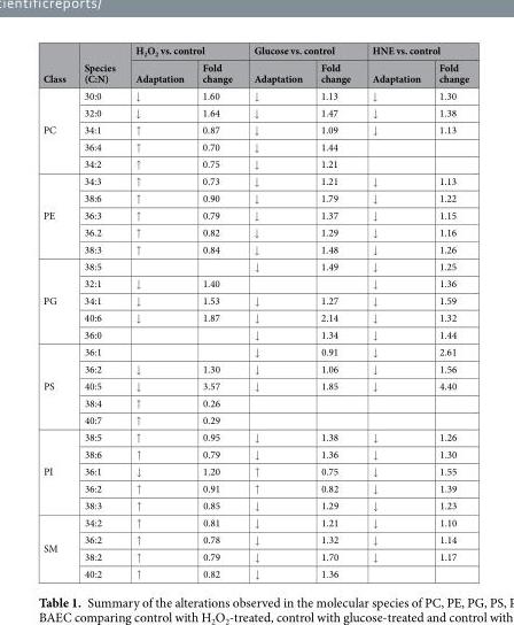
<table><thead><tr><td rowspan="2">Class</td><td rowspan="2">Species (C:N)</td><td colspan="2">H<sub>2</sub>O<sub>2</sub> vs. control</td><td colspan="2">Glucose vs. control</td><td colspan="2">HNE vs. control</td></tr><tr><td>Adaptation</td><td>Fold change</td><td>Adaptation</td><td>Fold change</td><td>Adaptation</td><td>Fold change</td></tr></thead><tbody><tr><td rowspan="5">PC</td><td>30:0</td><td>↓</td><td>1.60</td><td>↓</td><td>1.13</td><td>↓</td><td>1.30</td></tr><tr><td>32:0</td><td>↓</td><td>1.64</td><td>↓</td><td>1.47</td><td>↓</td><td>1.38</td></tr><tr><td>34:1</td><td>↑</td><td>0.87</td><td>↓</td><td>1.09</td><td>↓</td><td>1.13</td></tr><tr><td>36:4</td><td>↑</td><td>0.70</td><td>↓</td><td>1.44</td><td></td><td></td></tr><tr><td>34:2</td><td>↑</td><td>0.75</td><td>↓</td><td>1.21</td><td></td><td></td></tr><tr><td rowspan="5">PE</td><td>34:3</td><td>↑</td><td>0.73</td><td>↓</td><td>1.21</td><td>↓</td><td>1.13</td></tr><tr><td>38:6</td><td>↑</td><td>0.90</td><td>↓</td><td>1.79</td><td>↓</td><td>1.22</td></tr><tr><td>36:3</td><td>↑</td><td>0.79</td><td>↓</td><td>1.37</td><td>↓</td><td>1.15</td></tr><tr><td>36.2</td><td>↑</td><td>0.82</td><td>↓</td><td>1.29</td><td>↓</td><td>1.16</td></tr><tr><td>38:3</td><td>↑</td><td>0.84</td><td>↓</td><td>1.48</td><td>↓</td><td>1.26</td></tr><tr><td rowspan="5">PG</td><td>38:5</td><td></td><td></td><td>↓</td><td>1.49</td><td>↓</td><td>1.25</td></tr><tr><td>32:1</td><td>↓</td><td>1.40</td><td></td><td></td><td>↓</td><td>1.36</td></tr><tr><td>34:1</td><td>↓</td><td>1.53</td><td>↓</td><td>1.27</td><td>↓</td><td>1.59</td></tr><tr><td>40:6</td><td>↓</td><td>1.87</td><td>↓</td><td>2.14</td><td>↓</td><td>1.32</td></tr><tr><td>36:0</td><td></td><td></td><td>↓</td><td>1.34</td><td>↓</td><td>1.44</td></tr><tr><td rowspan="5">PS</td><td>36:1</td><td></td><td></td><td>↓</td><td>0.91</td><td>↓</td><td>2.61</td></tr><tr><td>36:2</td><td>↓</td><td>1.30</td><td>↓</td><td>1.06</td><td>↓</td><td>1.56</td></tr><tr><td>40:5</td><td>↓</td><td>3.57</td><td>↓</td><td>1.85</td><td>↓</td><td>4.40</td></tr><tr><td>38:4</td><td>↑</td><td>0.26</td><td></td><td></td><td></td><td></td></tr><tr><td>40:7</td><td>↑</td><td>0.29</td><td></td><td></td><td></td><td></td></tr><tr><td rowspan="5">PI</td><td>38:5</td><td>↑</td><td>0.95</td><td>↓</td><td>1.38</td><td>↓</td><td>1.26</td></tr><tr><td>38:6</td><td>↑</td><td>0.79</td><td>↓</td><td>1.36</td><td>↓</td><td>1.30</td></tr><tr><td>36:1</td><td>↓</td><td>1.20</td><td>↑</td><td>0.75</td><td>↓</td><td>1.55</td></tr><tr><td>36:2</td><td>↑</td><td>0.91</td><td>↑</td><td>0.82</td><td>↓</td><td>1.39</td></tr><tr><td>38:3</td><td>↑</td><td>0.85</td><td>↓</td><td>1.29</td><td>↓</td><td>1.23</td></tr><tr><td rowspan="4">SM</td><td>34:2</td><td>↑</td><td>0.81</td><td>↓</td><td>1.21</td><td>↓</td><td>1.10</td></tr><tr><td>36:2</td><td>↑</td><td>0.78</td><td>↓</td><td>1.32</td><td>↓</td><td>1.14</td></tr><tr><td>38:2</td><td>↑</td><td>0.79</td><td>↓</td><td>1.70</td><td>↓</td><td>1.17</td></tr><tr><td>40:2</td><td>↑</td><td>0.82</td><td>↓</td><td>1.36</td><td></td><td></td></tr></tbody></table>